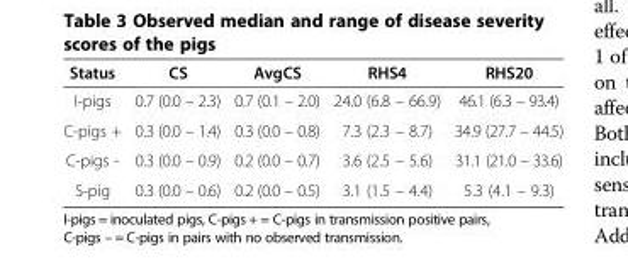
<table><thead><tr><td>Status</td><td>CS</td><td>AvgCS</td><td>RHS4</td><td>RHS20</td></tr></thead><tbody><tr><td>I-pigs</td><td>0.7 (0.0 – 2.3)</td><td>0.7 (0.1 – 2.0)</td><td>24.0 (6.8 – 66.9)</td><td>46.1 (6.3 – 93.4)</td></tr><tr><td>C-pigs +</td><td>0.3 (0.0 – 1.4)</td><td>0.3 (0.0 – 0.8)</td><td>7.3 (2.3 – 8.7)</td><td>34.9 (27.7 – 44.5)</td></tr><tr><td>C-pigs -</td><td>0.3 (0.0 – 0.9)</td><td>0.2 (0.0 – 0.7)</td><td>3.6 (2.5 – 5.6)</td><td>31.1 (21.0 – 33.6)</td></tr><tr><td>S-pig</td><td>0.3 (0.0 – 0.6)</td><td>0.2 (0.0 – 0.5)</td><td>3.1 (1.5 – 4.4)</td><td>5.3 (4.1 – 9.3)</td></tr></tbody></table>